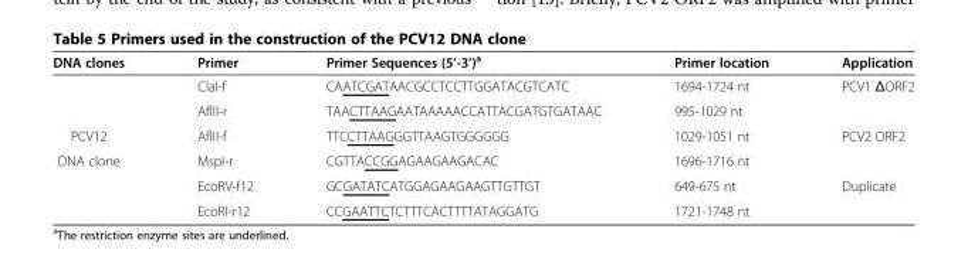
<table><thead><tr><td>DNA clones</td><td>Primer</td><td>Primer Sequences (5’-3’)<sup>a</sup></td><td>Primer location</td><td>Application</td></tr></thead><tbody><tr><td></td><td>ClaI-f</td><td>CAATCGATAACGCCTCCTTGGATACGTCATC</td><td>1694-1724 nt</td><td>PCV1 ΔORF2</td></tr><tr><td></td><td>AflII-r</td><td>TAACTTAAGAATAAAAACCATTACGATGTGATAAC</td><td>995-1029 nt</td><td></td></tr><tr><td>PCV12</td><td>AflII-f</td><td>TTCCTTAAGGGTTAAGTGGGGGG</td><td>1029-1051 nt</td><td>PCV2 ORF2</td></tr><tr><td rowspan="3">DNA clone</td><td>MspI-r</td><td>CGTTACCGGAGAAGAAGACAC</td><td>1696-1716 nt</td><td></td></tr><tr><td>EcoRV-f12</td><td>GCGATATCATGGAGAAGAAGTTGTTGT</td><td>649-675 nt</td><td>Duplicate</td></tr><tr><td>EcoRI-r12</td><td>CCGAATTCTCTTTCACTTTTATAGGATG</td><td>1721-1748 nt</td><td></td></tr></tbody></table>